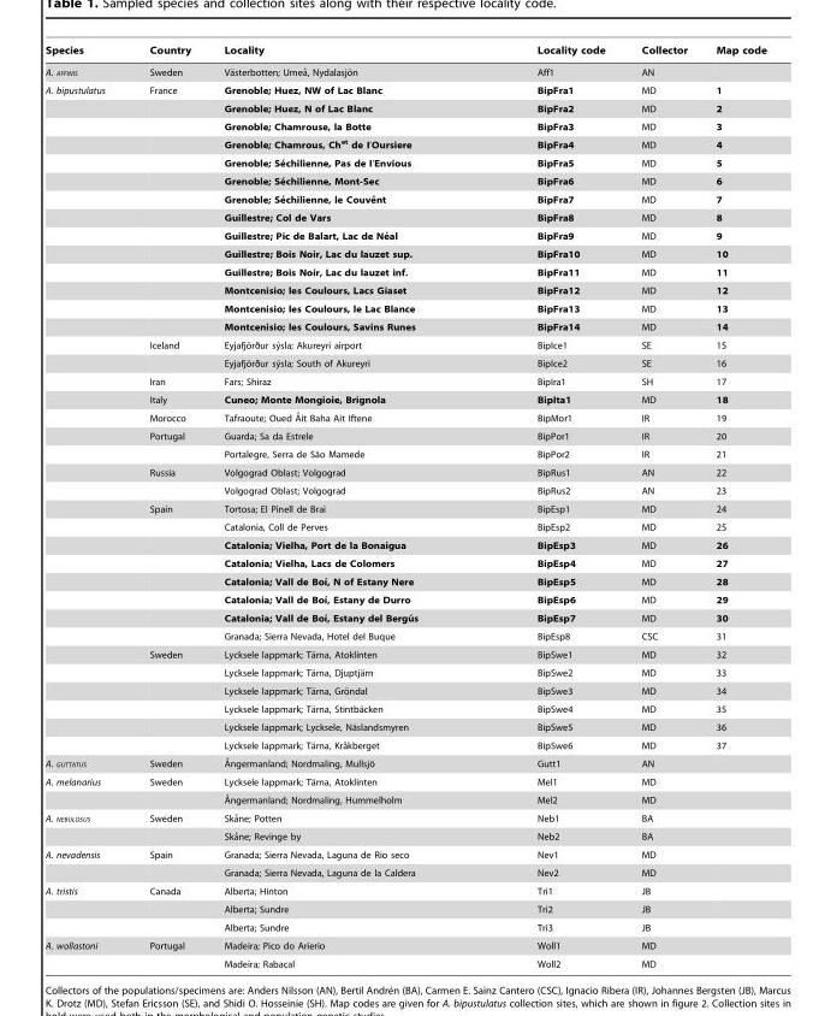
<table><thead><tr><td>Species</td><td>Country</td><td>Locality</td><td>Locality code</td><td>Collector</td><td>Map code</td></tr></thead><tbody><tr><td>A. AFFINIS</td><td>Sweden</td><td>Va¨sterbotten; Umea˚, Nydalasjo¨n</td><td>Aff1</td><td>AN</td><td></td></tr><tr><td rowspan="37">A. bipustulatus</td><td>France</td><td>Grenoble; Huez, NW of Lac Blanc</td><td>BipFra1</td><td>MD</td><td>1</td></tr><tr><td></td><td>Grenoble; Huez, N of Lac Blanc</td><td>BipFra2</td><td>MD</td><td>2</td></tr><tr><td></td><td>Grenoble; Chamrouse, la Botte</td><td>BipFra3</td><td>MD</td><td>3</td></tr><tr><td></td><td>Grenoble; Chamrous, Ch<sup>et</sup> de I’Oursiere</td><td>BipFra4</td><td>MD</td><td>4</td></tr><tr><td></td><td>Grenoble; Se´chilienne, Pas de I’Envious</td><td>BipFra5</td><td>MD</td><td>5</td></tr><tr><td></td><td>Grenoble; Se´chilienne, Mont-Sec</td><td>BipFra6</td><td>MD</td><td>6</td></tr><tr><td></td><td>Grenoble; Se´chilienne, le Couveˆnt</td><td>BipFra7</td><td>MD</td><td>7</td></tr><tr><td></td><td>Guillestre; Col de Vars</td><td>BipFra8</td><td>MD</td><td>8</td></tr><tr><td></td><td>Guillestre; Pic de Balart, Lac de Ne´al</td><td>BipFra9</td><td>MD</td><td>9</td></tr><tr><td></td><td>Guillestre; Bois Noir, Lac du lauzet sup.</td><td>BipFra10</td><td>MD</td><td>10</td></tr><tr><td></td><td>Guillestre; Bois Noir, Lac du lauzet inf.</td><td>BipFra11</td><td>MD</td><td>11</td></tr><tr><td></td><td>Montcenisio; les Coulours, Lacs Giaset</td><td>BipFra12</td><td>MD</td><td>12</td></tr><tr><td></td><td>Montcenisio; les Coulours, le Lac Blance</td><td>BipFra13</td><td>MD</td><td>13</td></tr><tr><td></td><td>Montcenisio; les Coulours, Savins Runes</td><td>BipFra14</td><td>MD</td><td>14</td></tr><tr><td>Iceland</td><td>Eyjafjo¨rður sy´sla; Akureyri airport</td><td>BipIce1</td><td>SE</td><td>15</td></tr><tr><td></td><td>Eyjafjo¨rður sy´sla; South of Akureyri</td><td>BipIce2</td><td>SE</td><td>16</td></tr><tr><td>Iran</td><td>Fars; Shiraz</td><td>BipIra1</td><td>SH</td><td>17</td></tr><tr><td>Italy</td><td>Cuneo; Monte Mongioie, Brignola</td><td>BipIta1</td><td>MD</td><td>18</td></tr><tr><td>Morocco</td><td>Tafraoute; Oued A˚it Baha Ait Iftene</td><td>BipMor1</td><td>IR</td><td>19</td></tr><tr><td>Portugal</td><td>Guarda; Sa da Estrele</td><td>BipPor1</td><td>IR</td><td>20</td></tr><tr><td></td><td>Portalegre, Serra de Sa˜o Mamede</td><td>BipPor2</td><td>IR</td><td>21</td></tr><tr><td>Russia</td><td>Volgograd Oblast; Volgograd</td><td>BipRus1</td><td>AN</td><td>22</td></tr><tr><td></td><td>Volgograd Oblast; Volgograd</td><td>BipRus2</td><td>AN</td><td>23</td></tr><tr><td>Spain</td><td>Tortosa; El Pinell de Brai</td><td>BipEsp1</td><td>MD</td><td>24</td></tr><tr><td></td><td>Catalonia, Coll de Perves</td><td>BipEsp2</td><td>MD</td><td>25</td></tr><tr><td></td><td>Catalonia; Vielha, Port de la Bonaigua</td><td>BipEsp3</td><td>MD</td><td>26</td></tr><tr><td></td><td>Catalonia; Vielha, Lacs de Colomers</td><td>BipEsp4</td><td>MD</td><td>27</td></tr><tr><td></td><td>Catalonia; Vall de Boı´, N of Estany Nere</td><td>BipEsp5</td><td>MD</td><td>28</td></tr><tr><td></td><td>Catalonia; Vall de Boı´, Estany de Durro</td><td>BipEsp6</td><td>MD</td><td>29</td></tr><tr><td></td><td>Catalonia; Vall de Boı´, Estany del Bergu´ s</td><td>BipEsp7</td><td>MD</td><td>30</td></tr><tr><td></td><td>Granada; Sierra Nevada, Hotel del Buque</td><td>BipEsp8</td><td>CSC</td><td>31</td></tr><tr><td>Sweden</td><td>Lycksele lappmark; Ta¨rna, Atoklinten</td><td>BipSwe1</td><td>MD</td><td>32</td></tr><tr><td></td><td>Lycksele lappmark; Ta¨rna, Djuptja¨rn</td><td>BipSwe2</td><td>MD</td><td>33</td></tr><tr><td></td><td>Lycksele lappmark; Ta¨rna, Gro¨ndal</td><td>BipSwe3</td><td>MD</td><td>34</td></tr><tr><td></td><td>Lycksele lappmark; Ta¨rna, Stintba¨cken</td><td>BipSwe4</td><td>MD</td><td>35</td></tr><tr><td></td><td>Lycksele lappmark; Lycksele, Na¨slandsmyren</td><td>BipSwe5</td><td>MD</td><td>36</td></tr><tr><td></td><td>Lycksele lappmark; Ta¨rna, Kra˚kberget</td><td>BipSwe6</td><td>MD</td><td>37</td></tr><tr><td>A. GUTTATUS</td><td>Sweden</td><td>A˚ngermanland; Nordmaling, Mullsjo¨</td><td>Gutt1</td><td>AN</td><td></td></tr><tr><td rowspan="2">A. melanarius</td><td>Sweden</td><td>Lycksele lappmark; Ta¨rna, Atoklinten</td><td>Mel1</td><td>MD</td><td></td></tr><tr><td></td><td>A˚ngermanland; Nordmaling, Hummelholm</td><td>Mel2</td><td>MD</td><td></td></tr><tr><td rowspan="2">A. NEBULOSUS</td><td>Sweden</td><td>Ska˚ne; Potten</td><td>Neb1</td><td>BA</td><td></td></tr><tr><td></td><td>Ska˚ne; Revinge by</td><td>Neb2</td><td>BA</td><td></td></tr><tr><td rowspan="2">A. nevadensis</td><td>Spain</td><td>Granada; Sierra Nevada, Laguna de Rio seco</td><td>Nev1</td><td>MD</td><td></td></tr><tr><td></td><td>Granada; Sierra Nevada, Laguna de la Caldera</td><td>Nev2</td><td>MD</td><td></td></tr><tr><td rowspan="3">A. tristis</td><td>Canada</td><td>Alberta; Hinton</td><td>Tri1</td><td>JB</td><td></td></tr><tr><td></td><td>Alberta; Sundre</td><td>Tri2</td><td>JB</td><td></td></tr><tr><td></td><td>Alberta; Sundre</td><td>Tri3</td><td>JB</td><td></td></tr><tr><td rowspan="2">A. wollastoni</td><td>Portugal</td><td>Madeira; Pico do Arierio</td><td>Woll1</td><td>MD</td><td></td></tr><tr><td></td><td>Madeira; Rabacal</td><td>Woll2</td><td>MD</td><td></td></tr></tbody></table>